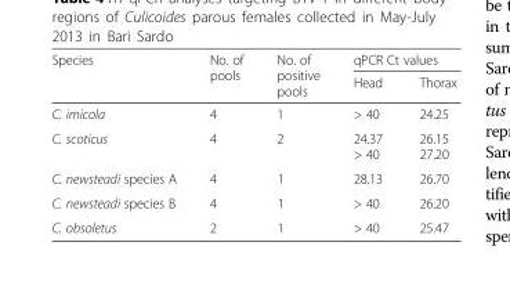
<table><thead><tr><td rowspan="2">Species</td><td rowspan="2">No. of pools</td><td rowspan="2">No. of positive pools</td><td colspan="2">qPCR Ct values</td></tr><tr><td>Head</td><td>Thorax</td></tr></thead><tbody><tr><td>C. imicola</td><td>4</td><td>1</td><td>&gt; 40</td><td>24.25</td></tr><tr><td>C. scoticus</td><td>4</td><td>2</td><td>24.37 &gt; 40</td><td>26.15 27.20</td></tr><tr><td>C. newsteadi species A</td><td>4</td><td>1</td><td>28.13</td><td>26.70</td></tr><tr><td>C. newsteadi species B</td><td>4</td><td>1</td><td>&gt; 40</td><td>26.20</td></tr><tr><td>C. obsoletus</td><td>2</td><td>1</td><td>&gt; 40</td><td>25.47</td></tr></tbody></table>